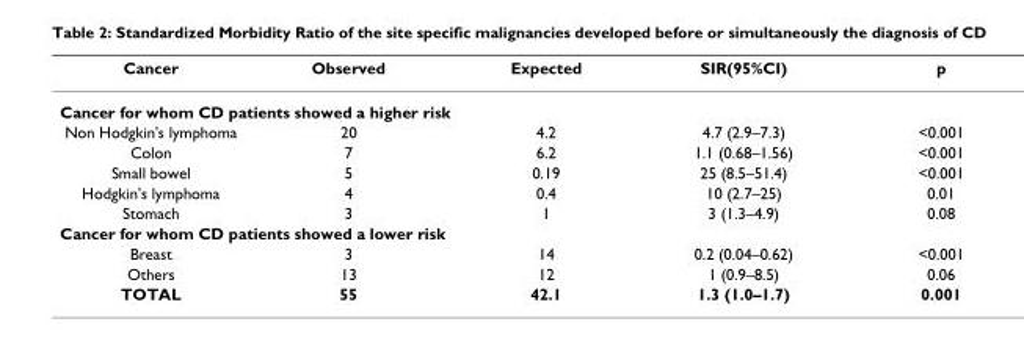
<table><thead><tr><td>Cancer</td><td>Observed</td><td>Expected</td><td>SIR(95%CI)</td><td>p</td></tr></thead><tbody><tr><td colspan="5">Cancer for whom CD patients showed a higher risk</td></tr><tr><td>Non Hodgkin&#x27;s lymphoma</td><td>20</td><td>4.2</td><td>4.7 (2.9–7.3)</td><td>&lt;0.001</td></tr><tr><td>Colon</td><td>7</td><td>6.2</td><td>1.1 (0.68–1.56)</td><td>&lt;0.001</td></tr><tr><td>Small bowel</td><td>5</td><td>0.19</td><td>25 (8.5–51.4)</td><td>&lt;0.001</td></tr><tr><td>Hodgkin&#x27;s lymphoma</td><td>4</td><td>0.4</td><td>10 (2.7–25)</td><td>0.01</td></tr><tr><td>Stomach</td><td>3</td><td>1</td><td>3 (1.3–4.9)</td><td>0.08</td></tr><tr><td colspan="5">Cancer for whom CD patients showed a lower risk</td></tr><tr><td>Breast</td><td>3</td><td>14</td><td>0.2 (0.04–0.62)</td><td>&lt;0.001</td></tr><tr><td>Others</td><td>13</td><td>12</td><td>1 (0.9–8.5)</td><td>0.06</td></tr><tr><td>TOTAL</td><td>55</td><td>42.1</td><td>1.3 (1.0–1.7)</td><td>0.001</td></tr></tbody></table>